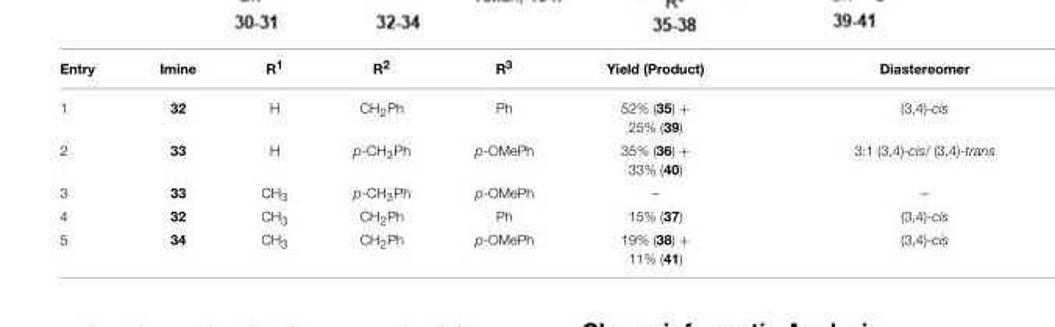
<table><tbody><tr><td>Entry</td><td>Imine</td><td>R<sup>1</sup></td><td>R<sup>2</sup></td><td>R<sup>3</sup></td><td>Yield (Product)</td><td>Diastereomer</td></tr><tr><td>1</td><td>32</td><td>H</td><td>CH<sub>2</sub>Ph</td><td>Ph</td><td>52% (35) + 25% (39)</td><td>(3,4)-cis</td></tr><tr><td>2</td><td>33</td><td>H</td><td>p-CH<sub>3</sub>Ph</td><td>p-OMePh</td><td>35% (36) + 33% (40)</td><td>3:1 (3,4)-cis/ (3,4)-trans</td></tr><tr><td>3</td><td>33</td><td>CH<sub>3</sub></td><td>p-CH<sub>3</sub>Ph</td><td>p-OMePh</td><td>–</td><td>–</td></tr><tr><td>4</td><td>32</td><td>CH<sub>3</sub></td><td>CH<sub>2</sub>Ph</td><td>Ph</td><td>15% (37)</td><td>(3,4)-cis</td></tr><tr><td>5</td><td>34</td><td>CH<sub>3</sub></td><td>CH<sub>2</sub>Ph</td><td>p-OMePh</td><td>19% (38) + 11% (41)</td><td>(3,4)-cis</td></tr></tbody></table>